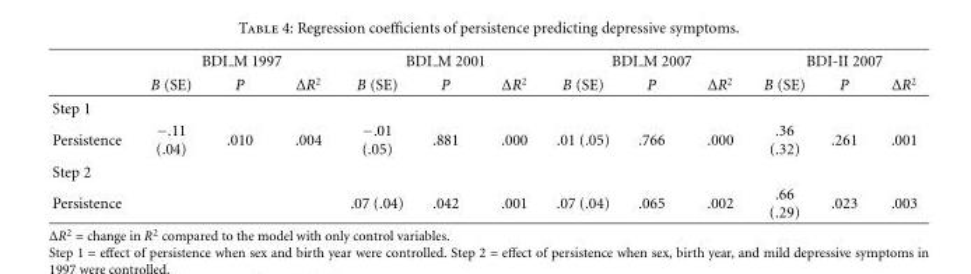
<table><thead><tr><td rowspan="2"></td><td colspan="3">BDI M 1997</td><td colspan="3">BDI M 2001</td><td colspan="3">BDI M 2007</td><td colspan="3">BDI-II 2007</td></tr><tr><td>B (SE)</td><td>P</td><td>ΔR<sup>2</sup></td><td>B (SE)</td><td>P</td><td>ΔR<sup>2</sup></td><td>B (SE)</td><td>P</td><td>ΔR<sup>2</sup></td><td>B (SE)</td><td>P</td><td>ΔR<sup>2</sup></td></tr></thead><tbody><tr><td colspan="13">Step 1</td></tr><tr><td>Persistence</td><td>−.11 (.04)</td><td>.010</td><td>.004</td><td>−.01 (.05)</td><td>.881</td><td>.000</td><td>.01 (.05)</td><td>.766</td><td>.000</td><td>.36 (.32)</td><td>.261</td><td>.001</td></tr><tr><td colspan="13">Step 2</td></tr><tr><td>Persistence</td><td></td><td></td><td></td><td>.07 (.04)</td><td>.042</td><td>.001</td><td>.07 (.04)</td><td>.065</td><td>.002</td><td>.66 (.29)</td><td>.023</td><td>.003</td></tr></tbody></table>